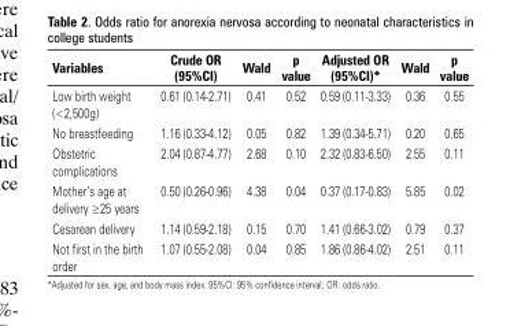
<table><thead><tr><td>Variables</td><td>Crude OR (95%CI)</td><td>Wald</td><td>p value</td><td>Adjusted OR (95%CI)*</td><td>Wald</td><td>p value</td></tr></thead><tbody><tr><td>Low birth weight (&lt;2,500g)</td><td>0.61 (0.14-2.71)</td><td>0.41</td><td>0.52</td><td>0.59 (0.11-3.33)</td><td>0.36</td><td>0.55</td></tr><tr><td>No breastfeeding</td><td>1.16 (0.33-4.12)</td><td>0.05</td><td>0.82</td><td>1.39 (0.34-5.71)</td><td>0.20</td><td>0.65</td></tr><tr><td>Obstetric complications</td><td>2.04 (0.87-4.77)</td><td>2.68</td><td>0.10</td><td>2.32 (0.83-6.50)</td><td>2.55</td><td>0.11</td></tr><tr><td>Mother’s age at delivery ≥25 years</td><td>0.50 (0.26-0.96)</td><td>4.38</td><td>0.04</td><td>0.37 (0.17-0.83)</td><td>5.85</td><td>0.02</td></tr><tr><td>Cesarean delivery</td><td>1.14 (0.59-2.18)</td><td>0.15</td><td>0.70</td><td>1.41 (0.66-3.02)</td><td>0.79</td><td>0.37</td></tr><tr><td>Not first in the birth order</td><td>1.07 (0.55-2.08)</td><td>0.04</td><td>0.85</td><td>1.86 (0.86-4.02)</td><td>2.51</td><td>0.11</td></tr></tbody></table>